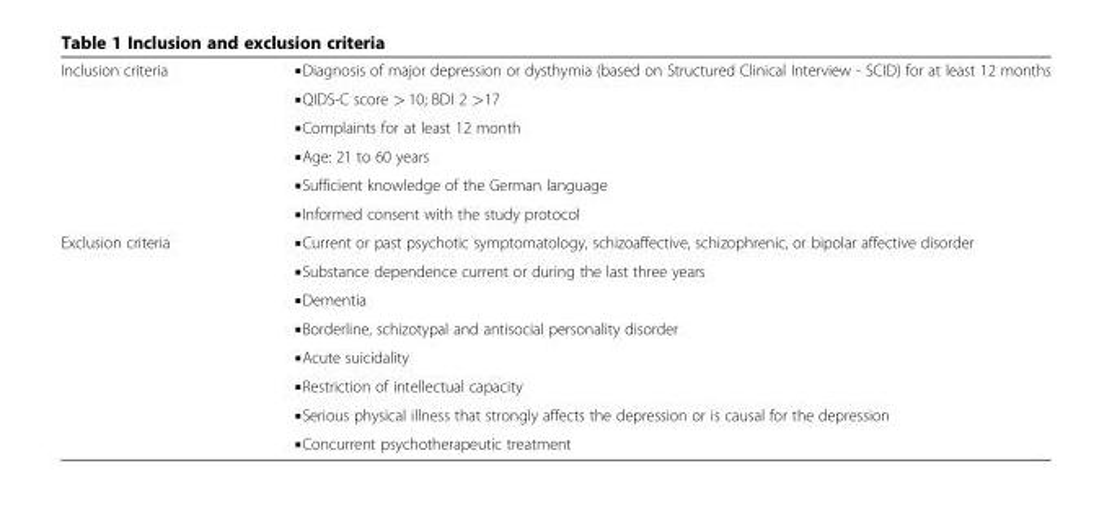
<table><tbody><tr><td rowspan="6">Inclusion criteria</td><td>▪Diagnosis of major depression or dysthymia (based on Structured Clinical Interview - SCID) for at least 12 months</td></tr><tr><td>▪QIDS-C score &gt; 10; BDI 2 &gt;17</td></tr><tr><td>▪Complaints for at least 12 month</td></tr><tr><td>▪Age: 21 to 60 years</td></tr><tr><td>▪Sufficient knowledge of the German language</td></tr><tr><td>▪Informed consent with the study protocol</td></tr><tr><td rowspan="8">Exclusion criteria</td><td>▪Current or past psychotic symptomatology, schizoaffective, schizophrenic, or bipolar affective disorder</td></tr><tr><td>▪Substance dependence current or during the last three years</td></tr><tr><td>▪Dementia</td></tr><tr><td>▪Borderline, schizotypal and antisocial personality disorder</td></tr><tr><td>▪Acute suicidality</td></tr><tr><td>▪Restriction of intellectual capacity</td></tr><tr><td>▪Serious physical illness that strongly affects the depression or is causal for the depression</td></tr><tr><td>▪Concurrent psychotherapeutic treatment</td></tr></tbody></table>